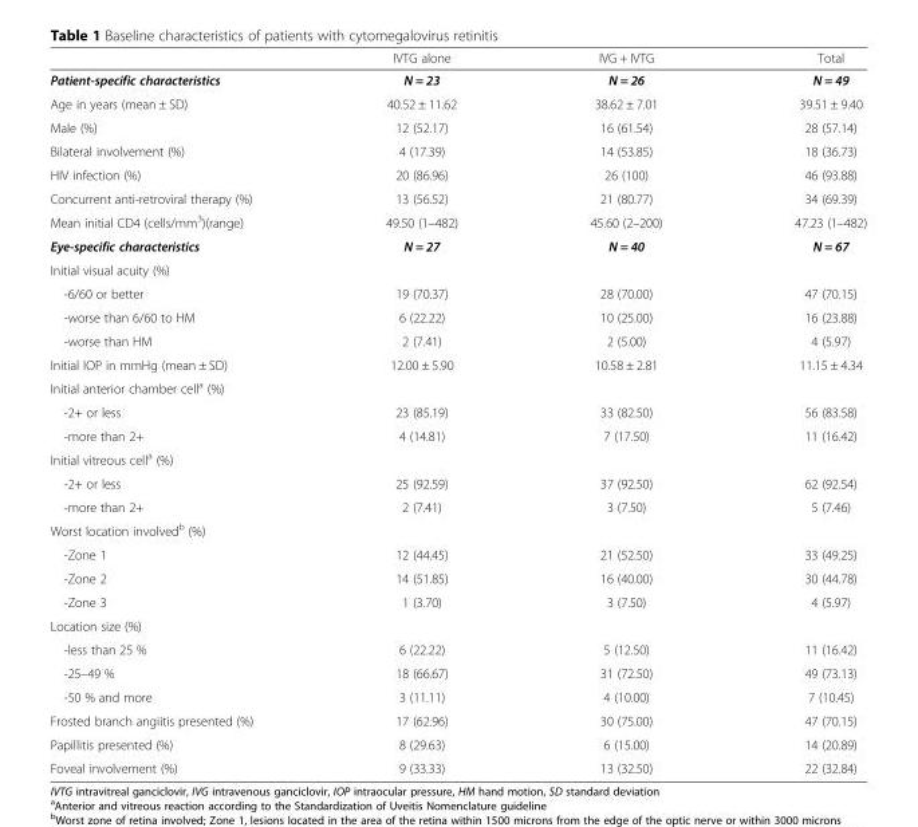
<table><thead><tr><td></td><td>IVTG alone</td><td>IVG + IVTG</td><td>Total</td></tr></thead><tbody><tr><td>Patient-specific characteristics</td><td>N = 23</td><td>N = 26</td><td>N = 49</td></tr><tr><td>Age in years (mean ± SD)</td><td>40.52 ± 11.62</td><td>38.62 ± 7.01</td><td>39.51 ± 9.40</td></tr><tr><td>Male (%)</td><td>12 (52.17)</td><td>16 (61.54)</td><td>28 (57.14)</td></tr><tr><td>Bilateral involvement (%)</td><td>4 (17.39)</td><td>14 (53.85)</td><td>18 (36.73)</td></tr><tr><td>HIV infection (%)</td><td>20 (86.96)</td><td>26 (100)</td><td>46 (93.88)</td></tr><tr><td>Concurrent anti-retroviral therapy (%)</td><td>13 (56.52)</td><td>21 (80.77)</td><td>34 (69.39)</td></tr><tr><td>Mean initial CD4 (cells/mm<sup>3</sup>)(range)</td><td>49.50 (1–482)</td><td>45.60 (2–200)</td><td>47.23 (1–482)</td></tr><tr><td>Eye-specific characteristics</td><td>N = 27</td><td>N = 40</td><td>N = 67</td></tr><tr><td colspan="4">Initial visual acuity (%)</td></tr><tr><td>-6/60 or better</td><td>19 (70.37)</td><td>28 (70.00)</td><td>47 (70.15)</td></tr><tr><td>-worse than 6/60 to HM</td><td>6 (22.22)</td><td>10 (25.00)</td><td>16 (23.88)</td></tr><tr><td>-worse than HM</td><td>2 (7.41)</td><td>2 (5.00)</td><td>4 (5.97)</td></tr><tr><td>Initial IOP in mmHg (mean ± SD)</td><td>12.00 ± 5.90</td><td>10.58 ± 2.81</td><td>11.15 ± 4.34</td></tr><tr><td colspan="4">Initial anterior chamber cell<sup>a</sup> (%)</td></tr><tr><td>-2+ or less</td><td>23 (85.19)</td><td>33 (82.50)</td><td>56 (83.58)</td></tr><tr><td>-more than 2+</td><td>4 (14.81)</td><td>7 (17.50)</td><td>11 (16.42)</td></tr><tr><td colspan="4">Initial vitreous cell<sup>a</sup> (%)</td></tr><tr><td>-2+ or less</td><td>25 (92.59)</td><td>37 (92.50)</td><td>62 (92.54)</td></tr><tr><td>-more than 2+</td><td>2 (7.41)</td><td>3 (7.50)</td><td>5 (7.46)</td></tr><tr><td colspan="4">Worst location involved<sup>b</sup> (%)</td></tr><tr><td>-Zone 1</td><td>12 (44.45)</td><td>21 (52.50)</td><td>33 (49.25)</td></tr><tr><td>-Zone 2</td><td>14 (51.85)</td><td>16 (40.00)</td><td>30 (44.78)</td></tr><tr><td>-Zone 3</td><td>1 (3.70)</td><td>3 (7.50)</td><td>4 (5.97)</td></tr><tr><td colspan="4">Location size (%)</td></tr><tr><td>-less than 25 %</td><td>6 (22.22)</td><td>5 (12.50)</td><td>11 (16.42)</td></tr><tr><td>-25–49 %</td><td>18 (66.67)</td><td>31 (72.50)</td><td>49 (73.13)</td></tr><tr><td>-50 % and more</td><td>3 (11.11)</td><td>4 (10.00)</td><td>7 (10.45)</td></tr><tr><td>Frosted branch angiitis presented (%)</td><td>17 (62.96)</td><td>30 (75.00)</td><td>47 (70.15)</td></tr><tr><td>Papillitis presented (%)</td><td>8 (29.63)</td><td>6 (15.00)</td><td>14 (20.89)</td></tr><tr><td>Foveal involvement (%)</td><td>9 (33.33)</td><td>13 (32.50)</td><td>22 (32.84)</td></tr></tbody></table>